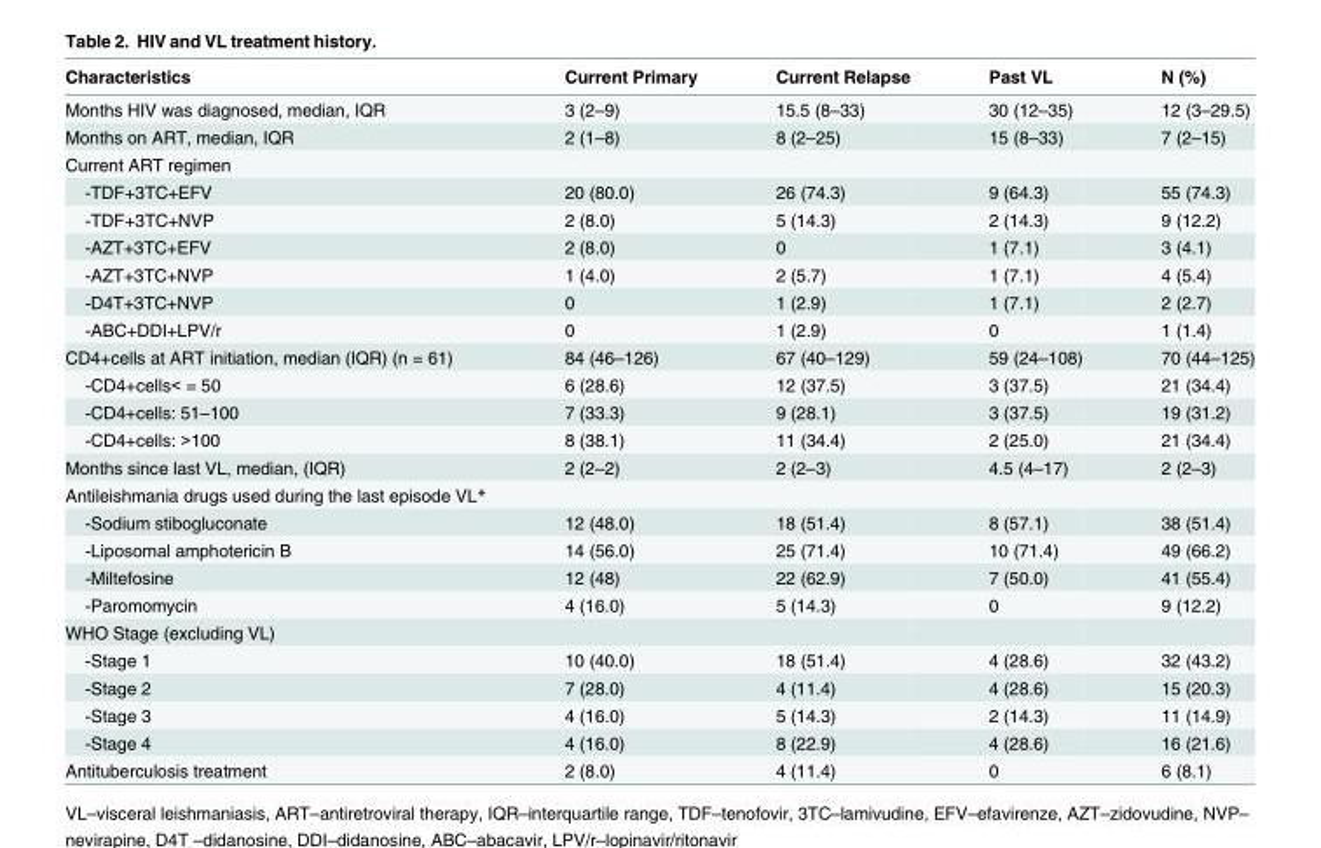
<table><thead><tr><td>Characteristics</td><td>Current Primary</td><td>Current Relapse</td><td>Past VL</td><td>N (%)</td></tr></thead><tbody><tr><td>Months HIV was diagnosed, median, IQR</td><td>3 (2–9)</td><td>15.5 (8–33)</td><td>30 (12–35)</td><td>12 (3–29.5)</td></tr><tr><td>Months on ART, median, IQR</td><td>2 (1–8)</td><td>8 (2–25)</td><td>15 (8–33)</td><td>7 (2–15)</td></tr><tr><td colspan="5">Current ART regimen</td></tr><tr><td>-TDF+3TC+EFV</td><td>20 (80.0)</td><td>26 (74.3)</td><td>9 (64.3)</td><td>55 (74.3)</td></tr><tr><td>-TDF+3TC+NVP</td><td>2 (8.0)</td><td>5 (14.3)</td><td>2 (14.3)</td><td>9 (12.2)</td></tr><tr><td>-AZT+3TC+EFV</td><td>2 (8.0)</td><td>0</td><td>1 (7.1)</td><td>3 (4.1)</td></tr><tr><td>-AZT+3TC+NVP</td><td>1 (4.0)</td><td>2 (5.7)</td><td>1 (7.1)</td><td>4 (5.4)</td></tr><tr><td>-D4T+3TC+NVP</td><td>0</td><td>1 (2.9)</td><td>1 (7.1)</td><td>2 (2.7)</td></tr><tr><td>-ABC+DDI+LPV/r</td><td>0</td><td>1 (2.9)</td><td>0</td><td>1 (1.4)</td></tr><tr><td>CD4+cells at ART initiation, median (IQR) (n = 61)</td><td>84 (46–126)</td><td>67 (40–129)</td><td>59 (24–108)</td><td>70 (44–125)</td></tr><tr><td>-CD4+cells&lt; = 50</td><td>6 (28.6)</td><td>12 (37.5)</td><td>3 (37.5)</td><td>21 (34.4)</td></tr><tr><td>-CD4+cells: 51–100</td><td>7 (33.3)</td><td>9 (28.1)</td><td>3 (37.5)</td><td>19 (31.2)</td></tr><tr><td>-CD4+cells: &gt;100</td><td>8 (38.1)</td><td>11 (34.4)</td><td>2 (25.0)</td><td>21 (34.4)</td></tr><tr><td>Months since last VL, median, (IQR)</td><td>2 (2–2)</td><td>2 (2–3)</td><td>4.5 (4–17)</td><td>2 (2–3)</td></tr><tr><td colspan="5">Antileishmania drugs used during the last episode VL*</td></tr><tr><td>-Sodium stibogluconate</td><td>12 (48.0)</td><td>18 (51.4)</td><td>8 (57.1)</td><td>38 (51.4)</td></tr><tr><td>-Liposomal amphotericin B</td><td>14 (56.0)</td><td>25 (71.4)</td><td>10 (71.4)</td><td>49 (66.2)</td></tr><tr><td>-Miltefosine</td><td>12 (48)</td><td>22 (62.9)</td><td>7 (50.0)</td><td>41 (55.4)</td></tr><tr><td>-Paromomycin</td><td>4 (16.0)</td><td>5 (14.3)</td><td>0</td><td>9 (12.2)</td></tr><tr><td colspan="5">WHO Stage (excluding VL)</td></tr><tr><td>-Stage 1</td><td>10 (40.0)</td><td>18 (51.4)</td><td>4 (28.6)</td><td>32 (43.2)</td></tr><tr><td>-Stage 2</td><td>7 (28.0)</td><td>4 (11.4)</td><td>4 (28.6)</td><td>15 (20.3)</td></tr><tr><td>-Stage 3</td><td>4 (16.0)</td><td>5 (14.3)</td><td>2 (14.3)</td><td>11 (14.9)</td></tr><tr><td>-Stage 4</td><td>4 (16.0)</td><td>8 (22.9)</td><td>4 (28.6)</td><td>16 (21.6)</td></tr><tr><td>Antituberculosis treatment</td><td>2 (8.0)</td><td>4 (11.4)</td><td>0</td><td>6 (8.1)</td></tr></tbody></table>